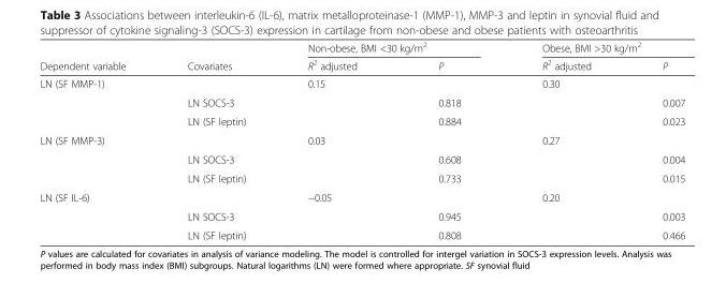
<table><thead><tr><td rowspan="2">Dependent variable</td><td rowspan="2">Covariates</td><td colspan="2">Non-obese, BMI &lt;30 kg/m<sup>2</sup></td><td colspan="2">Obese, BMI &gt;30 kg/m<sup>2</sup></td></tr><tr><td>R<sup>2</sup> adjusted</td><td>P</td><td>R<sup>2</sup> adjusted</td><td>P</td></tr></thead><tbody><tr><td rowspan="3">LN (SF MMP-1)</td><td></td><td>0.15</td><td></td><td>0.30</td><td></td></tr><tr><td>LN SOCS-3</td><td></td><td>0.818</td><td></td><td>0.007</td></tr><tr><td>LN (SF leptin)</td><td></td><td>0.884</td><td></td><td>0.023</td></tr><tr><td rowspan="3">LN (SF MMP-3)</td><td></td><td>0.03</td><td></td><td>0.27</td><td></td></tr><tr><td>LN SOCS-3</td><td></td><td>0.608</td><td></td><td>0.004</td></tr><tr><td>LN (SF leptin)</td><td></td><td>0.733</td><td></td><td>0.015</td></tr><tr><td rowspan="3">LN (SF IL-6)</td><td></td><td>−0.05</td><td></td><td>0.20</td><td></td></tr><tr><td>LN SOCS-3</td><td></td><td>0.945</td><td></td><td>0.003</td></tr><tr><td>LN (SF leptin)</td><td></td><td>0.808</td><td></td><td>0.466</td></tr></tbody></table>